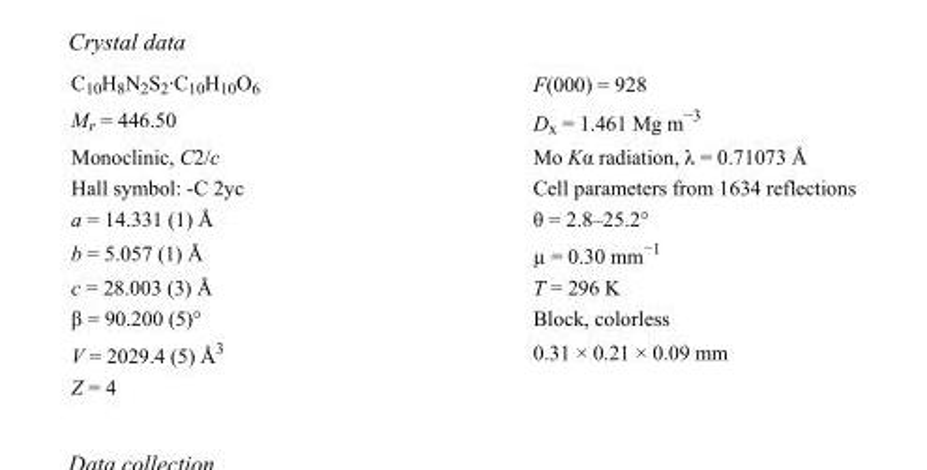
<table><tbody><tr><td>C<sub>10</sub>H<sub>8</sub>N<sub>2</sub>S<sub>2</sub>·C<sub>10</sub>H<sub>10</sub>O<sub>6</sub></td><td>F(000) = 928</td></tr><tr><td>M<sub>r</sub> = 446.50</td><td>D<sub>x</sub> = 1.461 Mg m<sup>−3</sup></td></tr><tr><td>Monoclinic, C2/c</td><td>Mo Kα radiation, λ = 0.71073 Å</td></tr><tr><td>Hall symbol: -C 2yc</td><td>Cell parameters from 1634 reflections</td></tr><tr><td>a = 14.331 (1) Å</td><td>θ = 2.8–25.2°</td></tr><tr><td>b = 5.057 (1) Å</td><td>µ = 0.30 mm<sup>−1</sup></td></tr><tr><td>c = 28.003 (3) Å</td><td>T = 296 K</td></tr><tr><td>β = 90.200 (5)°</td><td>Block, colorless</td></tr><tr><td>V = 2029.4 (5) Å<sup>3</sup></td><td>0.31 × 0.21 × 0.09 mm</td></tr><tr><td>Z = 4</td><td></td></tr></tbody></table>